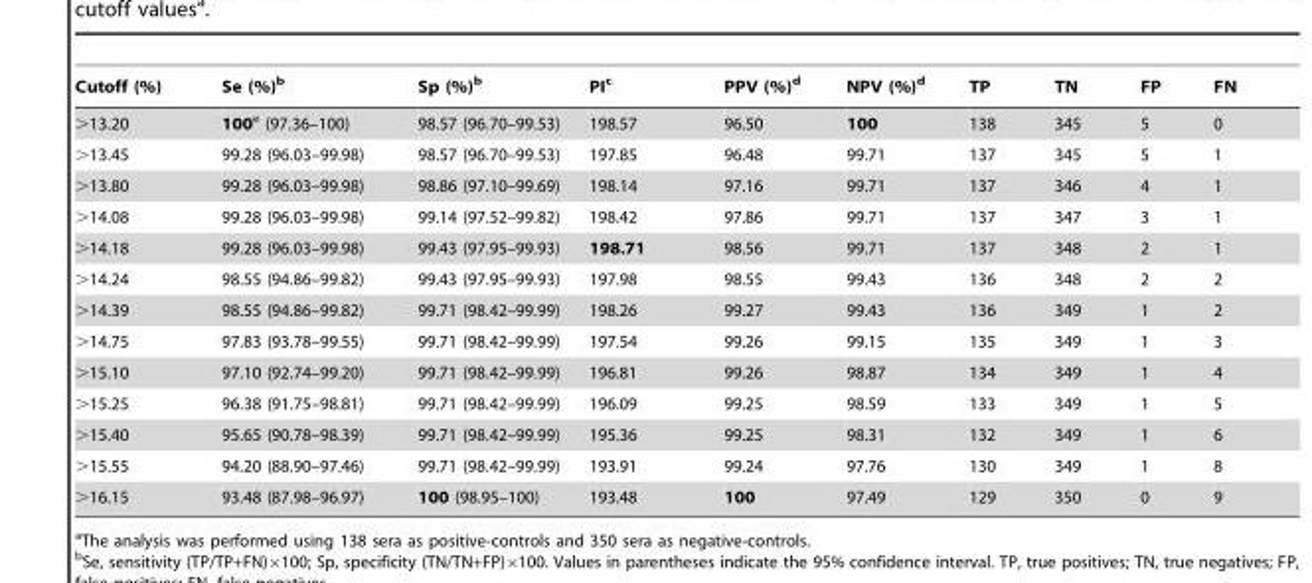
<table><thead><tr><td>Cutoff (%)</td><td>Se (%)<sup>b</sup></td><td>Sp (%)<sup>b</sup></td><td>PI<sup>c</sup></td><td>PPV (%)<sup>d</sup></td><td>NPV (%)<sup>d</sup></td><td>TP</td><td>TN</td><td>FP</td><td>FN</td></tr></thead><tbody><tr><td>&gt;13.20</td><td>100e (97.36–100)</td><td>98.57 (96.70–99.53)</td><td>198.57</td><td>96.50</td><td>100</td><td>138</td><td>345</td><td>5</td><td>0</td></tr><tr><td>&gt;13.45</td><td>99.28 (96.03–99.98)</td><td>98.57 (96.70–99.53)</td><td>197.85</td><td>96.48</td><td>99.71</td><td>137</td><td>345</td><td>5</td><td>1</td></tr><tr><td>&gt;13.80</td><td>99.28 (96.03–99.98)</td><td>98.86 (97.10–99.69)</td><td>198.14</td><td>97.16</td><td>99.71</td><td>137</td><td>346</td><td>4</td><td>1</td></tr><tr><td>&gt;14.08</td><td>99.28 (96.03–99.98)</td><td>99.14 (97.52–99.82)</td><td>198.42</td><td>97.86</td><td>99.71</td><td>137</td><td>347</td><td>3</td><td>1</td></tr><tr><td>&gt;14.18</td><td>99.28 (96.03–99.98)</td><td>99.43 (97.95–99.93)</td><td>198.71</td><td>98.56</td><td>99.71</td><td>137</td><td>348</td><td>2</td><td>1</td></tr><tr><td>&gt;14.24</td><td>98.55 (94.86–99.82)</td><td>99.43 (97.95–99.93)</td><td>197.98</td><td>98.55</td><td>99.43</td><td>136</td><td>348</td><td>2</td><td>2</td></tr><tr><td>&gt;14.39</td><td>98.55 (94.86–99.82)</td><td>99.71 (98.42–99.99)</td><td>198.26</td><td>99.27</td><td>99.43</td><td>136</td><td>349</td><td>1</td><td>2</td></tr><tr><td>&gt;14.75</td><td>97.83 (93.78–99.55)</td><td>99.71 (98.42–99.99)</td><td>197.54</td><td>99.26</td><td>99.15</td><td>135</td><td>349</td><td>1</td><td>3</td></tr><tr><td>&gt;15.10</td><td>97.10 (92.74–99.20)</td><td>99.71 (98.42–99.99)</td><td>196.81</td><td>99.26</td><td>98.87</td><td>134</td><td>349</td><td>1</td><td>4</td></tr><tr><td>&gt;15.25</td><td>96.38 (91.75–98.81)</td><td>99.71 (98.42–99.99)</td><td>196.09</td><td>99.25</td><td>98.59</td><td>133</td><td>349</td><td>1</td><td>5</td></tr><tr><td>&gt;15.40</td><td>95.65 (90.78–98.39)</td><td>99.71 (98.42–99.99)</td><td>195.36</td><td>99.25</td><td>98.31</td><td>132</td><td>349</td><td>1</td><td>6</td></tr><tr><td>&gt;15.55</td><td>94.20 (88.90–97.46)</td><td>99.71 (98.42–99.99)</td><td>193.91</td><td>99.24</td><td>97.76</td><td>130</td><td>349</td><td>1</td><td>8</td></tr><tr><td>&gt;16.15</td><td>93.48 (87.98–96.97)</td><td>100 (98.95–100)</td><td>193.48</td><td>100</td><td>97.49</td><td>129</td><td>350</td><td>0</td><td>9</td></tr></tbody></table>